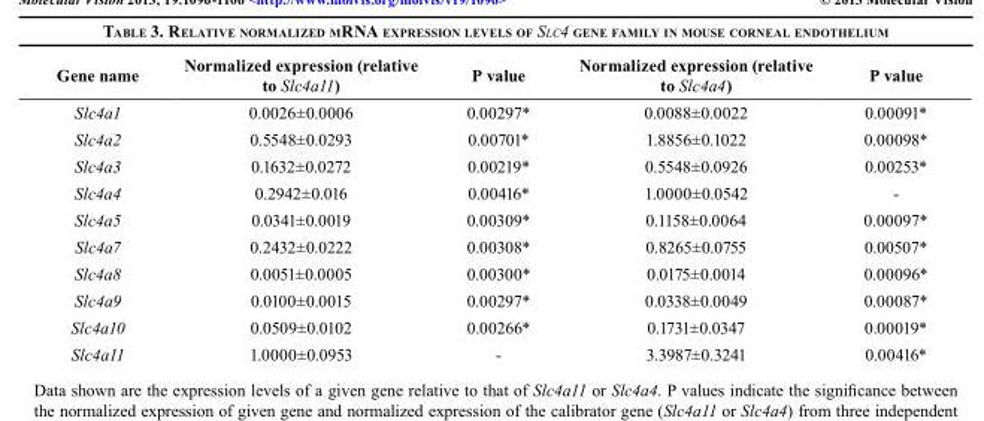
<table><thead><tr><td>Gene name</td><td>Normalized expression (relative to Slc4a11)</td><td>P value</td><td>Normalized expression (relative to Slc4a4)</td><td>P value</td></tr></thead><tbody><tr><td>Slc4a1</td><td>0.0026±0.0006</td><td>0.00297*</td><td>0.0088±0.0022</td><td>0.00091*</td></tr><tr><td>Slc4a2</td><td>0.5548±0.0293</td><td>0.00701*</td><td>1.8856±0.1022</td><td>0.00098*</td></tr><tr><td>Slc4a3</td><td>0.1632±0.0272</td><td>0.00219*</td><td>0.5548±0.0926</td><td>0.00253*</td></tr><tr><td>Slc4a4</td><td>0.2942±0.016</td><td>0.00416*</td><td>1.0000±0.0542</td><td>-</td></tr><tr><td>Slc4a5</td><td>0.0341±0.0019</td><td>0.00309*</td><td>0.1158±0.0064</td><td>0.00097*</td></tr><tr><td>Slc4a7</td><td>0.2432±0.0222</td><td>0.00308*</td><td>0.8265±0.0755</td><td>0.00507*</td></tr><tr><td>Slc4a8</td><td>0.0051±0.0005</td><td>0.00300*</td><td>0.0175±0.0014</td><td>0.00096*</td></tr><tr><td>Slc4a9</td><td>0.0100±0.0015</td><td>0.00297*</td><td>0.0338±0.0049</td><td>0.00087*</td></tr><tr><td>Slc4a10</td><td>0.0509±0.0102</td><td>0.00266*</td><td>0.1731±0.0347</td><td>0.00019*</td></tr><tr><td>Slc4a11</td><td>1.0000±0.0953</td><td>-</td><td>3.3987±0.3241</td><td>0.00416*</td></tr></tbody></table>